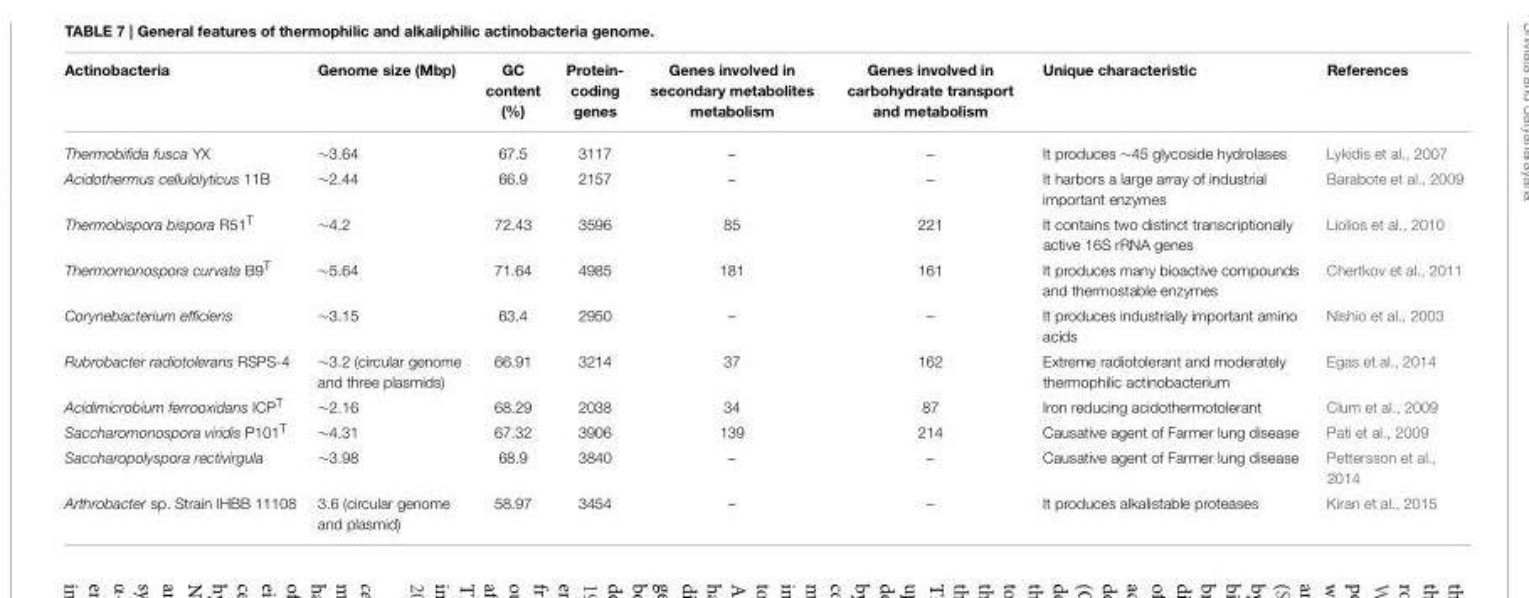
<table><thead><tr><td>Actinobacteria</td><td>Genome size (Mbp)</td><td>GC content (%)</td><td>Protein- coding genes</td><td>Genes involved in secondary metabolites metabolism</td><td>Genes involved in carbohydrate transport and metabolism</td><td>Unique characteristic</td><td>References</td></tr></thead><tbody><tr><td>Thermobifida fusca YX</td><td>∼3.64</td><td>67.5</td><td>3117</td><td>–</td><td>–</td><td>It produces ∼45 glycoside hydrolases</td><td>Lykidis et al., 2007</td></tr><tr><td>Acidothermus cellulolyticus 11B</td><td>∼2.44</td><td>66.9</td><td>2157</td><td>–</td><td>–</td><td>It harbors a large array of industrial important enzymes</td><td>Barabote et al., 2009</td></tr><tr><td>Thermobispora bispora R51<sup>T</sup></td><td>∼4.2</td><td>72.43</td><td>3596</td><td>85</td><td>221</td><td>It contains two distinct transcriptionally active 16S rRNA genes</td><td>Liolios et al., 2010</td></tr><tr><td>Thermomonospora curvata B9<sup>T</sup></td><td>∼5.64</td><td>71.64</td><td>4985</td><td>181</td><td>161</td><td>It produces many bioactive compounds and thermostable enzymes</td><td>Chertkov et al., 2011</td></tr><tr><td>Corynebacterium efficiens</td><td>∼3.15</td><td>63.4</td><td>2950</td><td>–</td><td>–</td><td>It produces industrially important amino acids</td><td>Nishio et al., 2003</td></tr><tr><td>Rubrobacter radiotolerans RSPS-4</td><td>∼3.2 (circular genome and three plasmids)</td><td>66.91</td><td>3214</td><td>37</td><td>162</td><td>Extreme radiotolerant and moderately thermophilic actinobacterium</td><td>Egas et al., 2014</td></tr><tr><td>Acidimicrobium ferrooxidans ICP<sup>T</sup></td><td>∼2.16</td><td>68.29</td><td>2038</td><td>34</td><td>87</td><td>Iron reducing acidothermotolerant</td><td>Clum et al., 2009</td></tr><tr><td>Saccharomonospora viridis P101<sup>T</sup></td><td>∼4.31</td><td>67.32</td><td>3906</td><td>139</td><td>214</td><td>Causative agent of Farmer lung disease</td><td>Pati et al., 2009</td></tr><tr><td>Saccharopolyspora rectivirgula</td><td>∼3.98</td><td>68.9</td><td>3840</td><td>–</td><td>–</td><td>Causative agent of Farmer lung disease</td><td>Pettersson et al., 2014</td></tr><tr><td>Arthrobacter sp. Strain IHBB 11108</td><td>3.6 (circular genome and plasmid)</td><td>58.97</td><td>3454</td><td>–</td><td>–</td><td>It produces alkalistable proteases</td><td>Kiran et al., 2015</td></tr></tbody></table>